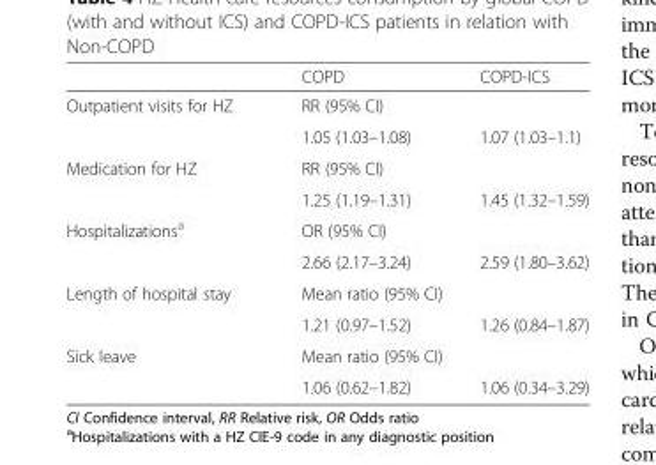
<table><thead><tr><td></td><td>COPD</td><td>COPD-ICS</td></tr></thead><tbody><tr><td rowspan="2">Outpatient visits for HZ</td><td colspan="2">RR (95% CI)</td></tr><tr><td>1.05 (1.03–1.08)</td><td>1.07 (1.03–1.1)</td></tr><tr><td rowspan="2">Medication for HZ</td><td colspan="2">RR (95% CI)</td></tr><tr><td>1.25 (1.19–1.31)</td><td>1.45 (1.32–1.59)</td></tr><tr><td rowspan="2">Hospitalizations<sup>a</sup></td><td colspan="2">OR (95% CI)</td></tr><tr><td>2.66 (2.17–3.24)</td><td>2.59 (1.80–3.62)</td></tr><tr><td rowspan="2">Length of hospital stay</td><td colspan="2">Mean ratio (95% CI)</td></tr><tr><td>1.21 (0.97–1.52)</td><td>1.26 (0.84–1.87)</td></tr><tr><td rowspan="2">Sick leave</td><td colspan="2">Mean ratio (95% CI)</td></tr><tr><td>1.06 (0.62–1.82)</td><td>1.06 (0.34–3.29)</td></tr></tbody></table>